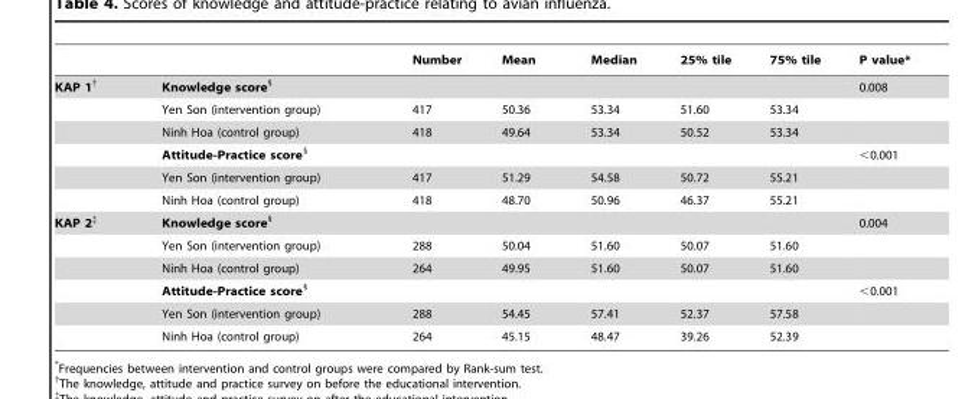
<table><thead><tr><td></td><td></td><td>Number</td><td>Mean</td><td>Median</td><td>25% tile</td><td>75% tile</td><td>P value*</td></tr></thead><tbody><tr><td rowspan="6">KAP 1†</td><td>Knowledge score<sup>§</sup></td><td></td><td></td><td></td><td></td><td></td><td>0.008</td></tr><tr><td>Yen Son (intervention group)</td><td>417</td><td>50.36</td><td>53.34</td><td>51.60</td><td>53.34</td><td></td></tr><tr><td>Ninh Hoa (control group)</td><td>418</td><td>49.64</td><td>53.34</td><td>50.52</td><td>53.34</td><td></td></tr><tr><td>Attitude-Practice score<sup>§</sup></td><td></td><td></td><td></td><td></td><td></td><td>&lt;0.001</td></tr><tr><td>Yen Son (intervention group)</td><td>417</td><td>51.29</td><td>54.58</td><td>50.72</td><td>55.21</td><td></td></tr><tr><td>Ninh Hoa (control group)</td><td>418</td><td>48.70</td><td>50.96</td><td>46.37</td><td>55.21</td><td></td></tr><tr><td rowspan="6">KAP 2‡</td><td>Knowledge score§</td><td></td><td></td><td></td><td></td><td></td><td>0.004</td></tr><tr><td>Yen Son (intervention group)</td><td>288</td><td>50.04</td><td>51.60</td><td>50.07</td><td>51.60</td><td></td></tr><tr><td>Ninh Hoa (control group)</td><td>264</td><td>49.95</td><td>51.60</td><td>50.07</td><td>51.60</td><td></td></tr><tr><td>Attitude-Practice score§</td><td></td><td></td><td></td><td></td><td></td><td>&lt;0.001</td></tr><tr><td>Yen Son (intervention group)</td><td>288</td><td>54.45</td><td>57.41</td><td>52.37</td><td>57.58</td><td></td></tr><tr><td>Ninh Hoa (control group)</td><td>264</td><td>45.15</td><td>48.47</td><td>39.26</td><td>52.39</td><td></td></tr></tbody></table>